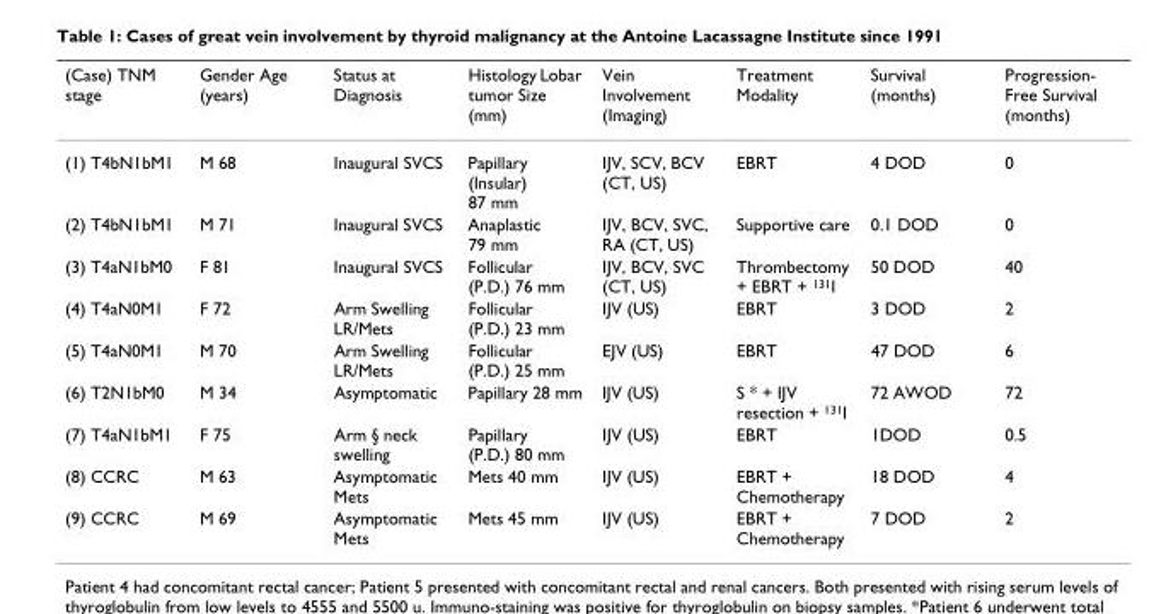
<table><thead><tr><td>(Case) TNM stage</td><td>Gender Age (years)</td><td>Status at Diagnosis</td><td>Histology Lobar tumor Size (mm)</td><td>Vein Involvement (Imaging)</td><td>Treatment Modality</td><td>Survival (months)</td><td>Progression- Free Survival (months)</td></tr></thead><tbody><tr><td>(1) T4bN1bM1</td><td>M 68</td><td>Inaugural SVCS</td><td>Papillary (Insular) 87 mm</td><td>IJV, SCV, BCV (CT, US)</td><td>EBRT</td><td>4 DOD</td><td>0</td></tr><tr><td>(2) T4bN1bM1</td><td>M 71</td><td>Inaugural SVCS</td><td>Anaplastic 79 mm</td><td>IJV, BCV, SVC, RA (CT, US)</td><td>Supportive care</td><td>0.1 DOD</td><td>0</td></tr><tr><td>(3) T4aN1bM0</td><td>F 81</td><td>Inaugural SVCS</td><td>Follicular (P.D.) 76 mm</td><td>IJV, BCV, SVC (CT, US)</td><td>Thrombectomy + EBRT + <sup>131</sup>I</td><td>50 DOD</td><td>40</td></tr><tr><td>(4) T4aN0M1</td><td>F 72</td><td>Arm Swelling LR/Mets</td><td>Follicular (P.D.) 23 mm</td><td>IJV (US)</td><td>EBRT</td><td>3 DOD</td><td>2</td></tr><tr><td>(5) T4aN0M1</td><td>M 70</td><td>Arm Swelling LR/Mets</td><td>Follicular (P.D.) 25 mm</td><td>EJV (US)</td><td>EBRT</td><td>47 DOD</td><td>6</td></tr><tr><td>(6) T2N1bM0</td><td>M 34</td><td>Asymptomatic</td><td>Papillary 28 mm</td><td>IJV (US)</td><td>S * + IJV resection + <sup>131</sup>I</td><td>72 AWOD</td><td>72</td></tr><tr><td>(7) T4aN1bM1</td><td>F 75</td><td>Arm § neck swelling</td><td>Papillary (P.D.) 80 mm</td><td>IJV (US)</td><td>EBRT</td><td>1DOD</td><td>0.5</td></tr><tr><td>(8) CCRC</td><td>M 63</td><td>Asymptomatic Mets</td><td>Mets 40 mm</td><td>IJV (US)</td><td>EBRT + Chemotherapy</td><td>18 DOD</td><td>4</td></tr><tr><td>(9) CCRC</td><td>M 69</td><td>Asymptomatic Mets</td><td>Mets 45 mm</td><td>IJV (US)</td><td>EBRT + Chemotherapy</td><td>7 DOD</td><td>2</td></tr></tbody></table>